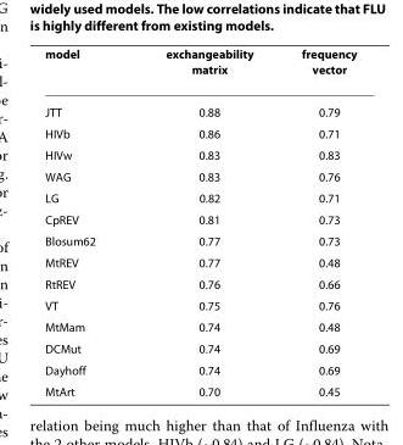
<table><thead><tr><td>model</td><td>exchangeability matrix</td><td>frequency vector</td></tr></thead><tbody><tr><td>JTT</td><td>0.88</td><td>0.79</td></tr><tr><td>HIVb</td><td>0.86</td><td>0.71</td></tr><tr><td>HIVw</td><td>0.83</td><td>0.83</td></tr><tr><td>WAG</td><td>0.83</td><td>0.76</td></tr><tr><td>LG</td><td>0.82</td><td>0.71</td></tr><tr><td>CpREV</td><td>0.81</td><td>0.73</td></tr><tr><td>Blosum62</td><td>0.77</td><td>0.73</td></tr><tr><td>MtREV</td><td>0.77</td><td>0.48</td></tr><tr><td>RtREV</td><td>0.76</td><td>0.66</td></tr><tr><td>VT</td><td>0.75</td><td>0.76</td></tr><tr><td>MtMam</td><td>0.74</td><td>0.48</td></tr><tr><td>DCMut</td><td>0.74</td><td>0.69</td></tr><tr><td>Dayhoff</td><td>0.74</td><td>0.69</td></tr><tr><td>MtArt</td><td>0.70</td><td>0.45</td></tr></tbody></table>